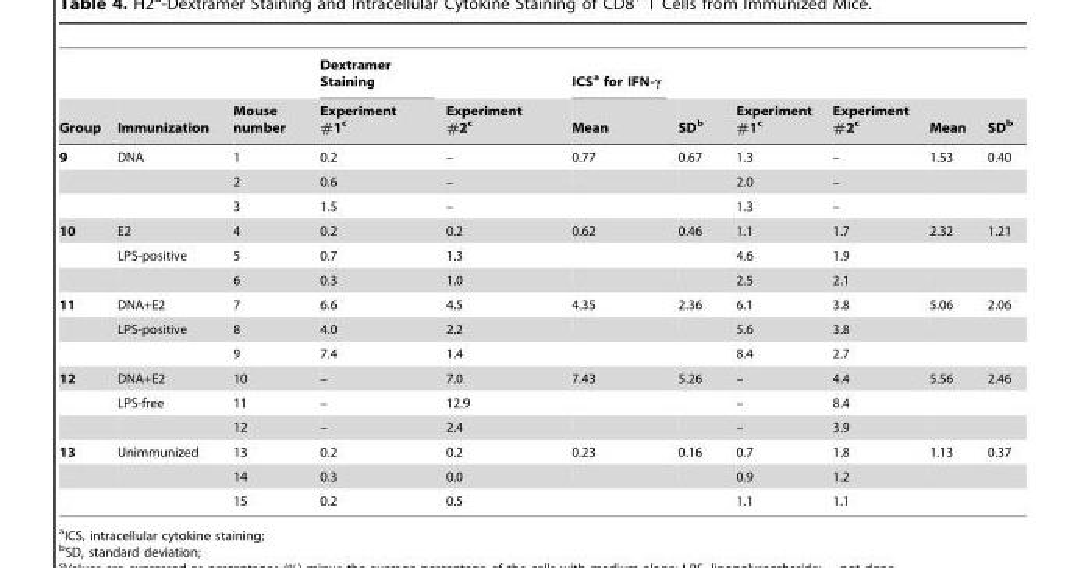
<table><thead><tr><td rowspan="2">Group</td><td rowspan="2">Immunization</td><td rowspan="2">Mouse number</td><td rowspan="2">Dextramer Staining Experiment #1<sup>c</sup></td><td rowspan="2">Experiment #2<sup>c</sup></td><td rowspan="2">ICS<sup>a</sup> for IFN-γ Mean</td><td rowspan="2">SD<sup>b</sup></td><td rowspan="2">Experiment #1<sup>c</sup></td><td rowspan="2">Experiment #2<sup>c</sup></td><td rowspan="2">Mean</td><td rowspan="2">SD<sup>b</sup></td></tr><tr></tr></thead><tbody><tr><td rowspan="3">9</td><td>DNA</td><td>1</td><td>0.2</td><td>–</td><td>0.77</td><td>0.67</td><td>1.3</td><td>–</td><td>1.53</td><td>0.40</td></tr><tr><td></td><td>2</td><td>0.6</td><td>–</td><td></td><td></td><td>2.0</td><td>–</td><td></td><td></td></tr><tr><td></td><td>3</td><td>1.5</td><td>–</td><td></td><td></td><td>1.3</td><td>–</td><td></td><td></td></tr><tr><td rowspan="3">10</td><td>E2</td><td>4</td><td>0.2</td><td>0.2</td><td>0.62</td><td>0.46</td><td>1.1</td><td>1.7</td><td>2.32</td><td>1.21</td></tr><tr><td>LPS-positive</td><td>5</td><td>0.7</td><td>1.3</td><td></td><td></td><td>4.6</td><td>1.9</td><td></td><td></td></tr><tr><td></td><td>6</td><td>0.3</td><td>1.0</td><td></td><td></td><td>2.5</td><td>2.1</td><td></td><td></td></tr><tr><td rowspan="3">11</td><td>DNA+E2</td><td>7</td><td>6.6</td><td>4.5</td><td>4.35</td><td>2.36</td><td>6.1</td><td>3.8</td><td>5.06</td><td>2.06</td></tr><tr><td>LPS-positive</td><td>8</td><td>4.0</td><td>2.2</td><td></td><td></td><td>5.6</td><td>3.8</td><td></td><td></td></tr><tr><td></td><td>9</td><td>7.4</td><td>1.4</td><td></td><td></td><td>8.4</td><td>2.7</td><td></td><td></td></tr><tr><td rowspan="3">12</td><td>DNA+E2</td><td>10</td><td>–</td><td>7.0</td><td>7.43</td><td>5.26</td><td>–</td><td>4.4</td><td>5.56</td><td>2.46</td></tr><tr><td>LPS-free</td><td>11</td><td>–</td><td>12.9</td><td></td><td></td><td>–</td><td>8.4</td><td></td><td></td></tr><tr><td></td><td>12</td><td>–</td><td>2.4</td><td></td><td></td><td>–</td><td>3.9</td><td></td><td></td></tr><tr><td rowspan="3">13</td><td>Unimmunized</td><td>13</td><td>0.2</td><td>0.2</td><td>0.23</td><td>0.16</td><td>0.7</td><td>1.8</td><td>1.13</td><td>0.37</td></tr><tr><td></td><td>14</td><td>0.3</td><td>0.0</td><td></td><td></td><td>0.9</td><td>1.2</td><td></td><td></td></tr><tr><td></td><td>15</td><td>0.2</td><td>0.5</td><td></td><td></td><td>1.1</td><td>1.1</td><td></td><td></td></tr></tbody></table>